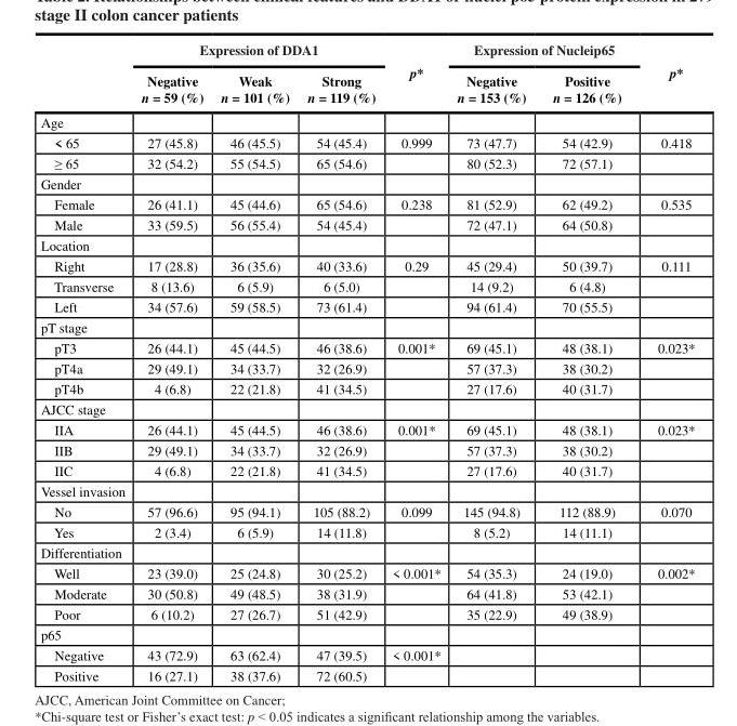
<table><thead><tr><td rowspan="2"></td><td colspan="3">Expression of DDA1</td><td rowspan="2">p*</td><td colspan="2">Expression of Nucleip65</td><td rowspan="2">p*</td></tr><tr><td>Negative n = 59 (%)</td><td>Weak n = 101 (%)</td><td>Strong n = 119 (%)</td><td>Negative n = 153 (%)</td><td>Positive n = 126 (%)</td></tr></thead><tbody><tr><td colspan="8">Age</td></tr><tr><td>&lt; 65</td><td>27 (45.8)</td><td>46 (45.5)</td><td>54 (45.4)</td><td>0.999</td><td>73 (47.7)</td><td>54 (42.9)</td><td>0.418</td></tr><tr><td>≥ 65</td><td>32 (54.2)</td><td>55 (54.5)</td><td>65 (54.6)</td><td></td><td>80 (52.3)</td><td>72 (57.1)</td><td></td></tr><tr><td colspan="8">Gender</td></tr><tr><td>Female</td><td>26 (41.1)</td><td>45 (44.6)</td><td>65 (54.6)</td><td>0.238</td><td>81 (52.9)</td><td>62 (49.2)</td><td>0.535</td></tr><tr><td>Male</td><td>33 (59.5)</td><td>56 (55.4)</td><td>54 (45.4)</td><td></td><td>72 (47.1)</td><td>64 (50.8)</td><td></td></tr><tr><td colspan="8">Location</td></tr><tr><td>Right</td><td>17 (28.8)</td><td>36 (35.6)</td><td>40 (33.6)</td><td>0.29</td><td>45 (29.4)</td><td>50 (39.7)</td><td>0.111</td></tr><tr><td>Transverse</td><td>8 (13.6)</td><td>6 (5.9)</td><td>6 (5.0)</td><td></td><td>14 (9.2)</td><td>6 (4.8)</td><td></td></tr><tr><td>Left</td><td>34 (57.6)</td><td>59 (58.5)</td><td>73 (61.4)</td><td></td><td>94 (61.4)</td><td>70 (55.5)</td><td></td></tr><tr><td colspan="8">pT stage</td></tr><tr><td>pT3</td><td>26 (44.1)</td><td>45 (44.5)</td><td>46 (38.6)</td><td>0.001*</td><td>69 (45.1)</td><td>48 (38.1)</td><td>0.023*</td></tr><tr><td>pT4a</td><td>29 (49.1)</td><td>34 (33.7)</td><td>32 (26.9)</td><td></td><td>57 (37.3)</td><td>38 (30.2)</td><td></td></tr><tr><td>pT4b</td><td>4 (6.8)</td><td>22 (21.8)</td><td>41 (34.5)</td><td></td><td>27 (17.6)</td><td>40 (31.7)</td><td></td></tr><tr><td colspan="8">AJCC stage</td></tr><tr><td>IIA</td><td>26 (44.1)</td><td>45 (44.5)</td><td>46 (38.6)</td><td>0.001*</td><td>69 (45.1)</td><td>48 (38.1)</td><td>0.023*</td></tr><tr><td>IIB</td><td>29 (49.1)</td><td>34 (33.7)</td><td>32 (26.9)</td><td></td><td>57 (37.3)</td><td>38 (30.2)</td><td></td></tr><tr><td>IIC</td><td>4 (6.8)</td><td>22 (21.8)</td><td>41 (34.5)</td><td></td><td>27 (17.6)</td><td>40 (31.7)</td><td></td></tr><tr><td colspan="8">Vessel invasion</td></tr><tr><td>No</td><td>57 (96.6)</td><td>95 (94.1)</td><td>105 (88.2)</td><td>0.099</td><td>145 (94.8)</td><td>112 (88.9)</td><td>0.070</td></tr><tr><td>Yes</td><td>2 (3.4)</td><td>6 (5.9)</td><td>14 (11.8)</td><td></td><td>8 (5.2)</td><td>14 (11.1)</td><td></td></tr><tr><td colspan="8">Differentiation</td></tr><tr><td>Well</td><td>23 (39.0)</td><td>25 (24.8)</td><td>30 (25.2)</td><td>&lt; 0.001*</td><td>54 (35.3)</td><td>24 (19.0)</td><td>0.002*</td></tr><tr><td>Moderate</td><td>30 (50.8)</td><td>49 (48.5)</td><td>38 (31.9)</td><td></td><td>64 (41.8)</td><td>53 (42.1)</td><td></td></tr><tr><td>Poor</td><td>6 (10.2)</td><td>27 (26.7)</td><td>51 (42.9)</td><td></td><td>35 (22.9)</td><td>49 (38.9)</td><td></td></tr><tr><td colspan="8">p65</td></tr><tr><td>Negative</td><td>43 (72.9)</td><td>63 (62.4)</td><td>47 (39.5)</td><td>&lt; 0.001*</td><td></td><td></td><td></td></tr><tr><td>Positive</td><td>16 (27.1)</td><td>38 (37.6)</td><td>72 (60.5)</td><td></td><td></td><td></td><td></td></tr></tbody></table>